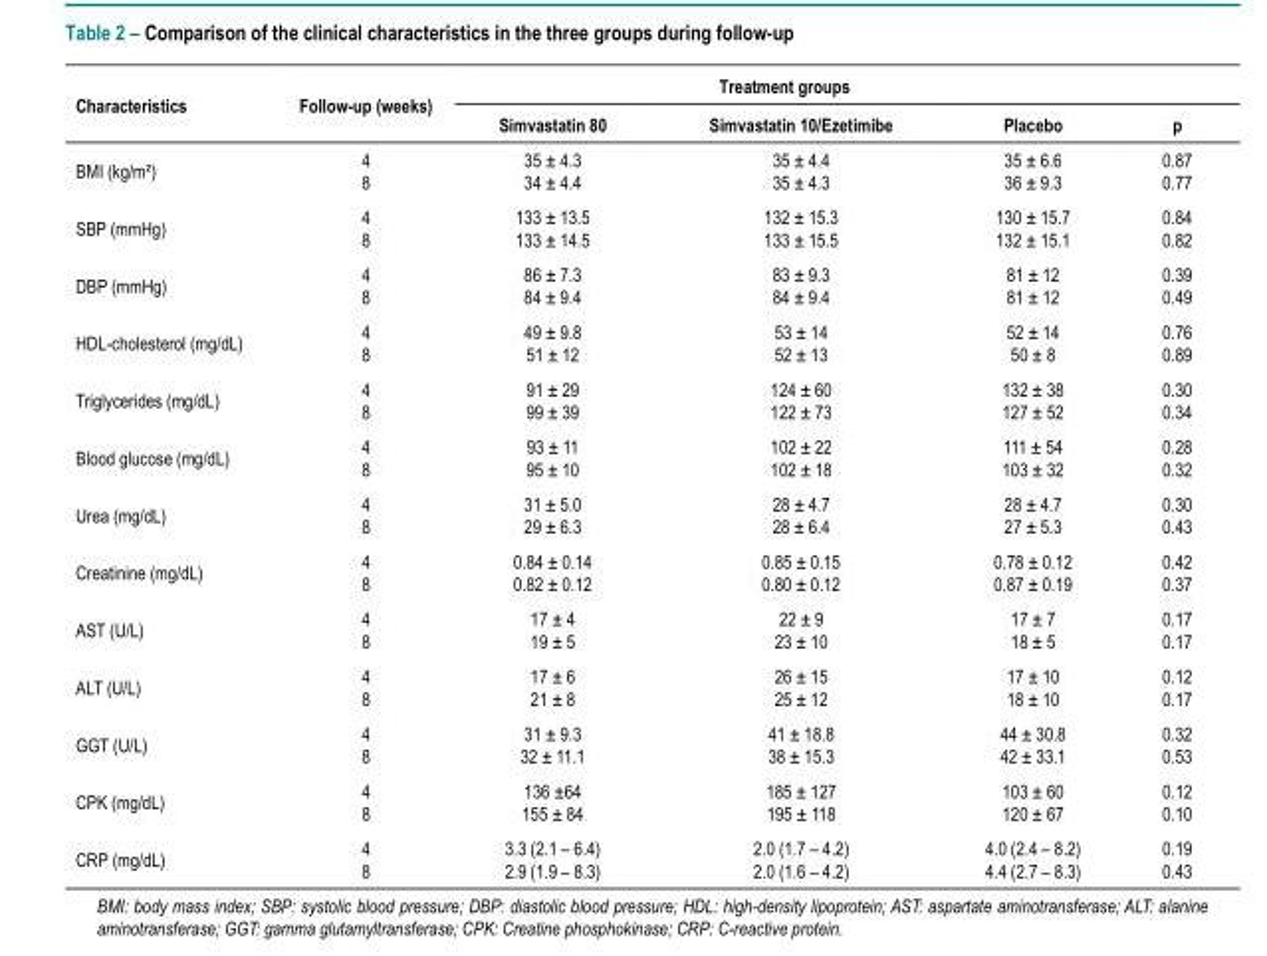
<table><thead><tr><td rowspan="2">Characteristics</td><td rowspan="2">Follow-up (weeks)</td><td colspan="4">Treatment groups</td></tr><tr><td>Simvastatin 80</td><td>Simvastatin 10/Ezetimibe</td><td>Placebo</td><td>p</td></tr></thead><tbody><tr><td>BMI (kg/m²)</td><td>4 8</td><td>35 ± 4.3 34 ± 4.4</td><td>35 ± 4.4 35 ± 4.3</td><td>35 ± 6.6 36 ± 9.3</td><td>0.87 0.77</td></tr><tr><td>SBP (mmHg)</td><td>4 8</td><td>133 ± 13.5 133 ± 14.5</td><td>132 ± 15.3 133 ± 15.5</td><td>130 ± 15.7 132 ± 15.1</td><td>0.84 0.82</td></tr><tr><td>DBP (mmHg)</td><td>4 8</td><td>86 ± 7.3 84 ± 9.4</td><td>83 ± 9.3 84 ± 9.4</td><td>81 ± 12 81 ± 12</td><td>0.39 0.49</td></tr><tr><td>HDL-cholesterol (mg/dL)</td><td>4 8</td><td>49 ± 9.8 51 ± 12</td><td>53 ± 14 52 ± 13</td><td>52 ± 14 50 ± 8</td><td>0.76 0.89</td></tr><tr><td>Triglycerides (mg/dL)</td><td>4 8</td><td>91 ± 29 99 ± 39</td><td>124 ± 60 122 ± 73</td><td>132 ± 38 127 ± 52</td><td>0.30 0.34</td></tr><tr><td>Blood glucose (mg/dL)</td><td>4 8</td><td>93 ± 11 95 ± 10</td><td>102 ± 22 102 ± 18</td><td>111 ± 54 103 ± 32</td><td>0.28 0.32</td></tr><tr><td>Urea (mg/dL)</td><td>4 8</td><td>31 ± 5.0 29 ± 6.3</td><td>28 ± 4.7 28 ± 6.4</td><td>28 ± 4.7 27 ± 5.3</td><td>0.30 0.43</td></tr><tr><td>Creatinine (mg/dL)</td><td>4 8</td><td>0.84 ± 0.14 0.82 ± 0.12</td><td>0.85 ± 0.15 0.80 ± 0.12</td><td>0.78 ± 0.12 0.87 ± 0.19</td><td>0.42 0.37</td></tr><tr><td>AST (U/L)</td><td>4 8</td><td>17 ± 4 19 ± 5</td><td>22 ± 9 23 ± 10</td><td>17 ± 7 18 ± 5</td><td>0.17 0.17</td></tr><tr><td>ALT (U/L)</td><td>4 8</td><td>17 ± 6 21 ± 8</td><td>26 ± 15 25 ± 12</td><td>17 ± 10 18 ± 10</td><td>0.12 0.17</td></tr><tr><td>GGT (U/L)</td><td>4 8</td><td>31 ± 9.3 32 ± 11.1</td><td>41 ± 18.8 38 ± 15.3</td><td>44 ± 30.8 42 ± 33.1</td><td>0.32 0.53</td></tr><tr><td>CPK (mg/dL)</td><td>4 8</td><td>136 ±64 155 ± 84</td><td>185 ± 127 195 ± 118</td><td>103 ± 60 120 ± 67</td><td>0.12 0.10</td></tr><tr><td>CRP (mg/dL)</td><td>4 8</td><td>3.3 (2.1 – 6.4) 2.9 (1.9 – 8.3)</td><td>2.0 (1.7 – 4.2) 2.0 (1.6 – 4.2)</td><td>4.0 (2.4 – 8.2) 4.4 (2.7 – 8.3)</td><td>0.19 0.43</td></tr></tbody></table>